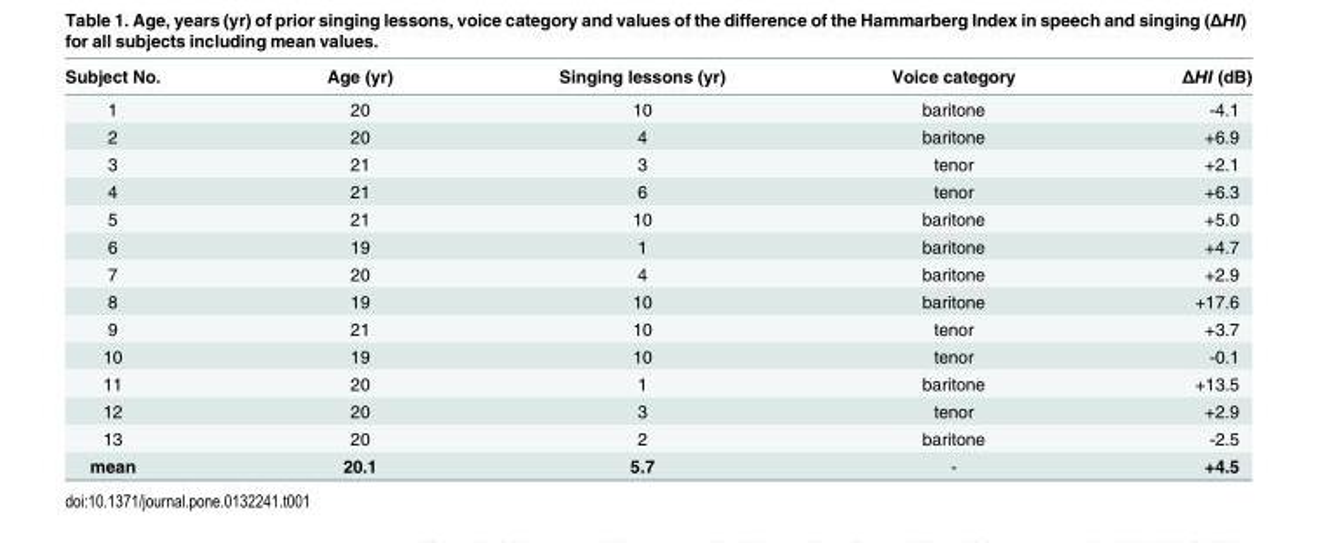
<table><thead><tr><td>Subject No.</td><td>Age (yr)</td><td>Singing lessons (yr)</td><td>Voice category</td><td>ΔHI (dB)</td></tr></thead><tbody><tr><td>1</td><td>20</td><td>10</td><td>baritone</td><td>-4.1</td></tr><tr><td>2</td><td>20</td><td>4</td><td>baritone</td><td>+6.9</td></tr><tr><td>3</td><td>21</td><td>3</td><td>tenor</td><td>+2.1</td></tr><tr><td>4</td><td>21</td><td>6</td><td>tenor</td><td>+6.3</td></tr><tr><td>5</td><td>21</td><td>10</td><td>baritone</td><td>+5.0</td></tr><tr><td>6</td><td>19</td><td>1</td><td>baritone</td><td>+4.7</td></tr><tr><td>7</td><td>20</td><td>4</td><td>baritone</td><td>+2.9</td></tr><tr><td>8</td><td>19</td><td>10</td><td>baritone</td><td>+17.6</td></tr><tr><td>9</td><td>21</td><td>10</td><td>tenor</td><td>+3.7</td></tr><tr><td>10</td><td>19</td><td>10</td><td>tenor</td><td>-0.1</td></tr><tr><td>11</td><td>20</td><td>1</td><td>baritone</td><td>+13.5</td></tr><tr><td>12</td><td>20</td><td>3</td><td>tenor</td><td>+2.9</td></tr><tr><td>13</td><td>20</td><td>2</td><td>baritone</td><td>-2.5</td></tr><tr><td>mean</td><td>20.1</td><td>5.7</td><td>-</td><td>+4.5</td></tr></tbody></table>